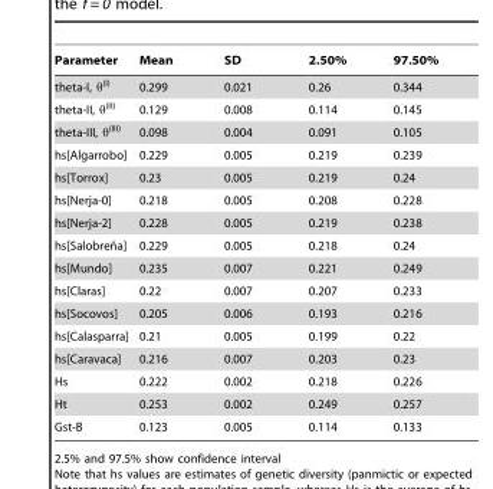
<table><thead><tr><td>Parameter</td><td>Mean</td><td>SD</td><td>2.50%</td><td>97.50%</td></tr></thead><tbody><tr><td>theta-I, θ<sup>(I)</sup></td><td>0.299</td><td>0.021</td><td>0.26</td><td>0.344</td></tr><tr><td>theta-II, θ<sup>(II)</sup></td><td>0.129</td><td>0.008</td><td>0.114</td><td>0.145</td></tr><tr><td>theta-III, θ<sup>(III)</sup></td><td>0.098</td><td>0.004</td><td>0.091</td><td>0.105</td></tr><tr><td>hs[Algarrobo]</td><td>0.229</td><td>0.005</td><td>0.219</td><td>0.239</td></tr><tr><td>hs[Torrox]</td><td>0.23</td><td>0.005</td><td>0.219</td><td>0.24</td></tr><tr><td>hs[Nerja-0]</td><td>0.218</td><td>0.005</td><td>0.208</td><td>0.228</td></tr><tr><td>hs[Nerja-2]</td><td>0.228</td><td>0.005</td><td>0.219</td><td>0.238</td></tr><tr><td>hs[Salobren˜a]</td><td>0.229</td><td>0.005</td><td>0.218</td><td>0.24</td></tr><tr><td>hs[Mundo]</td><td>0.235</td><td>0.007</td><td>0.221</td><td>0.249</td></tr><tr><td>hs[Claras]</td><td>0.22</td><td>0.007</td><td>0.207</td><td>0.233</td></tr><tr><td>hs[Socovos]</td><td>0.205</td><td>0.006</td><td>0.193</td><td>0.216</td></tr><tr><td>hs[Calasparra]</td><td>0.21</td><td>0.005</td><td>0.199</td><td>0.22</td></tr><tr><td>hs[Caravaca]</td><td>0.216</td><td>0.007</td><td>0.203</td><td>0.23</td></tr><tr><td>Hs</td><td>0.222</td><td>0.002</td><td>0.218</td><td>0.226</td></tr><tr><td>Ht</td><td>0.253</td><td>0.002</td><td>0.249</td><td>0.257</td></tr><tr><td>Gst-B</td><td>0.123</td><td>0.005</td><td>0.114</td><td>0.133</td></tr></tbody></table>